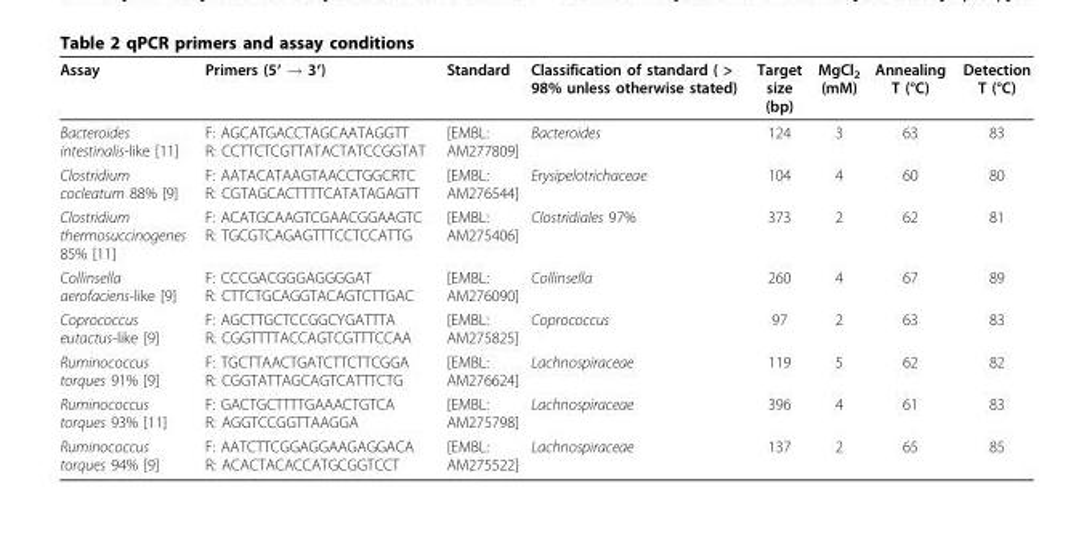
<table><thead><tr><td>Assay</td><td>Primers (5′ → 3′)</td><td>Standard</td><td>Classification of standard ( &gt; 98% unless otherwise stated)</td><td>Target size (bp)</td><td>MgCl<sub>2</sub> (mM)</td><td>Annealing T (°C)</td><td>Detection T (°C)</td></tr></thead><tbody><tr><td>Bacteroides intestinalis-like [11]</td><td>F: AGCATGACCTAGCAATAGGTT R: CCTTCTCGTTATACTATCCGGTAT</td><td>[EMBL: AM277809]</td><td>Bacteroides</td><td>124</td><td>3</td><td>63</td><td>83</td></tr><tr><td>Clostridium cocleatum 88% [9]</td><td>F: AATACATAAGTAACCTGGCRTC R: CGTAGCACTTTTCATATAGAGTT</td><td>[EMBL: AM276544]</td><td>Erysipelotrichaceae</td><td>104</td><td>4</td><td>60</td><td>80</td></tr><tr><td>Clostridium thermosuccinogenes 85% [11]</td><td>F: ACATGCAAGTCGAACGGAAGTC R: TGCGTCAGAGTTTCCTCCATTG</td><td>[EMBL: AM275406]</td><td>Clostridiales 97%</td><td>373</td><td>2</td><td>62</td><td>81</td></tr><tr><td>Collinsella aerofaciens-like [9]</td><td>F: CCCGACGGGAGGGGAT R: CTTCTGCAGGTACAGTCTTGAC</td><td>[EMBL: AM276090]</td><td>Collinsella</td><td>260</td><td>4</td><td>67</td><td>89</td></tr><tr><td>Coprococcus eutactus-like [9]</td><td>F: AGCTTGCTCCGGCYGATTTA R: CGGTTTTACCAGTCGTTTCCAA</td><td>[EMBL: AM275825]</td><td>Coprococcus</td><td>97</td><td>2</td><td>63</td><td>83</td></tr><tr><td>Ruminococcus torques 91% [9]</td><td>F: TGCTTAACTGATCTTCTTCGGA R: CGGTATTAGCAGTCATTTCTG</td><td>[EMBL: AM276624]</td><td>Lachnospiraceae</td><td>119</td><td>5</td><td>62</td><td>82</td></tr><tr><td>Ruminococcus torques 93% [11]</td><td>F: GACTGCTTTTGAAACTGTCA R: AGGTCCGGTTAAGGA</td><td>[EMBL: AM275798]</td><td>Lachnospiraceae</td><td>396</td><td>4</td><td>61</td><td>83</td></tr><tr><td>Ruminococcus torques 94% [9]</td><td>F: AATCTTCGGAGGAAGAGGACA R: ACACTACACCATGCGGTCCT</td><td>[EMBL: AM275522]</td><td>Lachnospiraceae</td><td>137</td><td>2</td><td>65</td><td>85</td></tr></tbody></table>